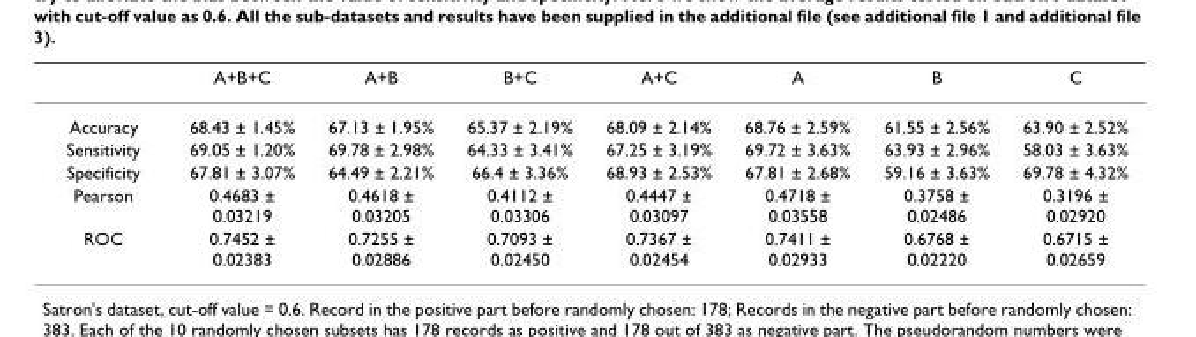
<table><thead><tr><td></td><td>A+B+C</td><td>A+B</td><td>B+C</td><td>A+C</td><td>A</td><td>B</td><td>C</td></tr></thead><tbody><tr><td>Accuracy</td><td>68.43 ± 1.45%</td><td>67.13 ± 1.95%</td><td>65.37 ± 2.19%</td><td>68.09 ± 2.14%</td><td>68.76 ± 2.59%</td><td>61.55 ± 2.56%</td><td>63.90 ± 2.52%</td></tr><tr><td>Sensitivity</td><td>69.05 ± 1.20%</td><td>69.78 ± 2.98%</td><td>64.33 ± 3.41%</td><td>67.25 ± 3.19%</td><td>69.72 ± 3.63%</td><td>63.93 ± 2.96%</td><td>58.03 ± 3.63%</td></tr><tr><td>Specificity</td><td>67.81 ± 3.07%</td><td>64.49 ± 2.21%</td><td>66.4 ± 3.36%</td><td>68.93 ± 2.53%</td><td>67.81 ± 2.68%</td><td>59.16 ± 3.63%</td><td>69.78 ± 4.32%</td></tr><tr><td>Pearson</td><td>0.4683 ± 0.03219</td><td>0.4618 ± 0.03205</td><td>0.4112 ± 0.03306</td><td>0.4447 ± 0.03097</td><td>0.4718 ± 0.03558</td><td>0.3758 ± 0.02486</td><td>0.3196 ± 0.02920</td></tr><tr><td>ROC</td><td>0.7452 ± 0.02383</td><td>0.7255 ± 0.02886</td><td>0.7093 ± 0.02450</td><td>0.7367 ± 0.02454</td><td>0.7411 ± 0.02933</td><td>0.6768 ± 0.02220</td><td>0.6715 ± 0.02659</td></tr></tbody></table>